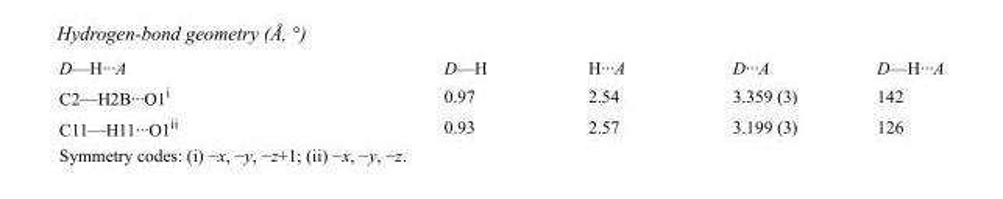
<table><tbody><tr><td>D—H···A</td><td>D—H</td><td>H···A</td><td>D···A</td><td>D—H···A</td></tr><tr><td>C2—H2B···O1<sup>i</sup></td><td>0.97</td><td>2.54</td><td>3.359 (3)</td><td>142</td></tr><tr><td>C11—H11···O1<sup>ii</sup></td><td>0.93</td><td>2.57</td><td>3.199 (3)</td><td>126</td></tr></tbody></table>